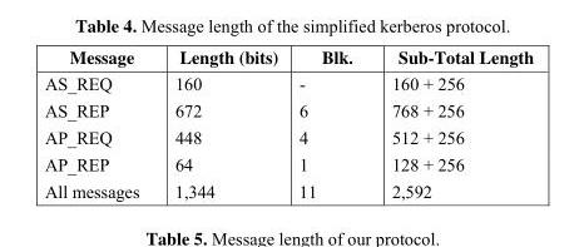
<table><thead><tr><td>Message</td><td>Length (bits)</td><td>Blk.</td><td>Sub-Total Length</td></tr></thead><tbody><tr><td>AS_REQ</td><td>160</td><td>-</td><td>160 + 256</td></tr><tr><td>AS_REP</td><td>672</td><td>6</td><td>768 + 256</td></tr><tr><td>AP_REQ</td><td>448</td><td>4</td><td>512 + 256</td></tr><tr><td>AP_REP</td><td>64</td><td>1</td><td>128 + 256</td></tr><tr><td>All messages</td><td>1,344</td><td>11</td><td>2,592</td></tr></tbody></table>